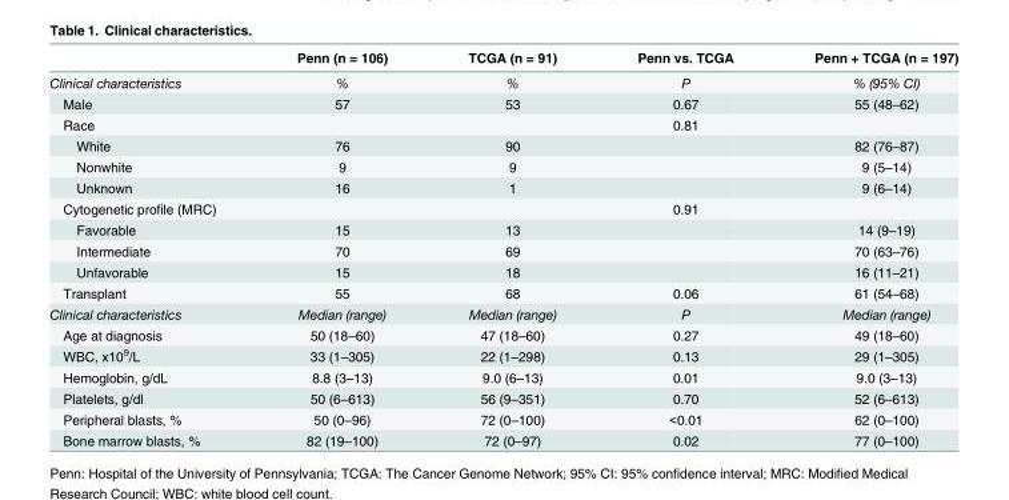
<table><thead><tr><td></td><td>Penn (n = 106)</td><td>TCGA (n = 91)</td><td>Penn vs. TCGA</td><td>Penn + TCGA (n = 197)</td></tr></thead><tbody><tr><td>Clinical characteristics</td><td>%</td><td>%</td><td>P</td><td>% (95% CI)</td></tr><tr><td>Male</td><td>57</td><td>53</td><td>0.67</td><td>55 (48–62)</td></tr><tr><td>Race</td><td></td><td></td><td>0.81</td><td></td></tr><tr><td>White</td><td>76</td><td>90</td><td></td><td>82 (76–87)</td></tr><tr><td>Nonwhite</td><td>9</td><td>9</td><td></td><td>9 (5–14)</td></tr><tr><td>Unknown</td><td>16</td><td>1</td><td></td><td>9 (6–14)</td></tr><tr><td>Cytogenetic profile (MRC)</td><td></td><td></td><td>0.91</td><td></td></tr><tr><td>Favorable</td><td>15</td><td>13</td><td></td><td>14 (9–19)</td></tr><tr><td>Intermediate</td><td>70</td><td>69</td><td></td><td>70 (63–76)</td></tr><tr><td>Unfavorable</td><td>15</td><td>18</td><td></td><td>16 (11–21)</td></tr><tr><td>Transplant</td><td>55</td><td>68</td><td>0.06</td><td>61 (54–68)</td></tr><tr><td>Clinical characteristics</td><td>Median (range)</td><td>Median (range)</td><td>P</td><td>Median (range)</td></tr><tr><td>Age at diagnosis</td><td>50 (18–60)</td><td>47 (18–60)</td><td>0.27</td><td>49 (18–60)</td></tr><tr><td>WBC, x10<sup>9</sup>/L</td><td>33 (1–305)</td><td>22 (1–298)</td><td>0.13</td><td>29 (1–305)</td></tr><tr><td>Hemoglobin, g/dL</td><td>8.8 (3–13)</td><td>9.0 (6–13)</td><td>0.01</td><td>9.0 (3–13)</td></tr><tr><td>Platelets, g/dl</td><td>50 (6–613)</td><td>56 (9–351)</td><td>0.70</td><td>52 (6–613)</td></tr><tr><td>Peripheral blasts, %</td><td>50 (0–96)</td><td>72 (0–100)</td><td>&lt;0.01</td><td>62 (0–100)</td></tr><tr><td>Bone marrow blasts, %</td><td>82 (19–100)</td><td>72 (0–97)</td><td>0.02</td><td>77 (0–100)</td></tr></tbody></table>